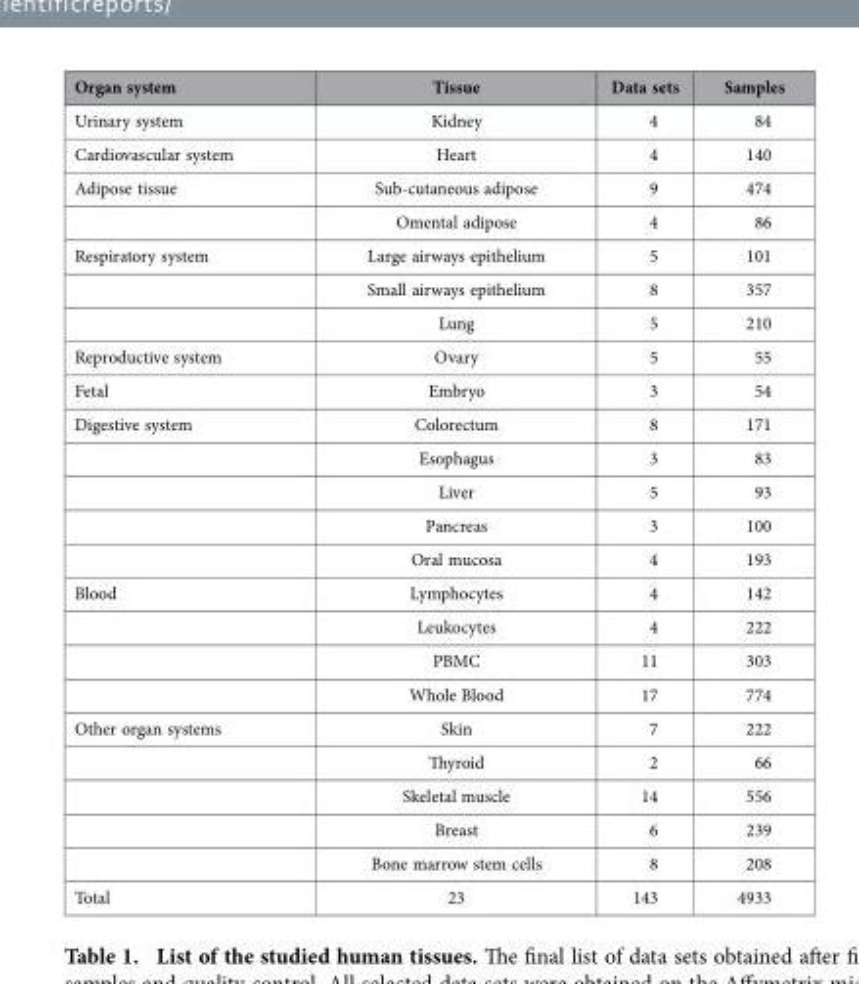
<table><thead><tr><td>Organ system</td><td>Tissue</td><td>Data sets</td><td>Samples</td></tr></thead><tbody><tr><td>Urinary system</td><td>Kidney</td><td>4</td><td>84</td></tr><tr><td>Cardiovascular system</td><td>Heart</td><td>4</td><td>140</td></tr><tr><td rowspan="2">Adipose tissue</td><td>Sub-cutaneous adipose</td><td>9</td><td>474</td></tr><tr><td>Omental adipose</td><td>4</td><td>86</td></tr><tr><td rowspan="3">Respiratory system</td><td>Large airways epithelium</td><td>5</td><td>101</td></tr><tr><td>Small airways epithelium</td><td>8</td><td>357</td></tr><tr><td>Lung</td><td>5</td><td>210</td></tr><tr><td>Reproductive system</td><td>Ovary</td><td>5</td><td>55</td></tr><tr><td>Fetal</td><td>Embryo</td><td>3</td><td>54</td></tr><tr><td rowspan="5">Digestive system</td><td>Colorectum</td><td>8</td><td>171</td></tr><tr><td>Esophagus</td><td>3</td><td>83</td></tr><tr><td>Liver</td><td>5</td><td>93</td></tr><tr><td>Pancreas</td><td>3</td><td>100</td></tr><tr><td>Oral mucosa</td><td>4</td><td>193</td></tr><tr><td rowspan="4">Blood</td><td>Lymphocytes</td><td>4</td><td>142</td></tr><tr><td>Leukocytes</td><td>4</td><td>222</td></tr><tr><td>PBMC</td><td>11</td><td>303</td></tr><tr><td>Whole Blood</td><td>17</td><td>774</td></tr><tr><td rowspan="5">Other organ systems</td><td>Skin</td><td>7</td><td>222</td></tr><tr><td>Thyroid</td><td>2</td><td>66</td></tr><tr><td>Skeletal muscle</td><td>14</td><td>556</td></tr><tr><td>Breast</td><td>6</td><td>239</td></tr><tr><td>Bone marrow stem cells</td><td>8</td><td>208</td></tr><tr><td>Total</td><td>23</td><td>143</td><td>4933</td></tr></tbody></table>